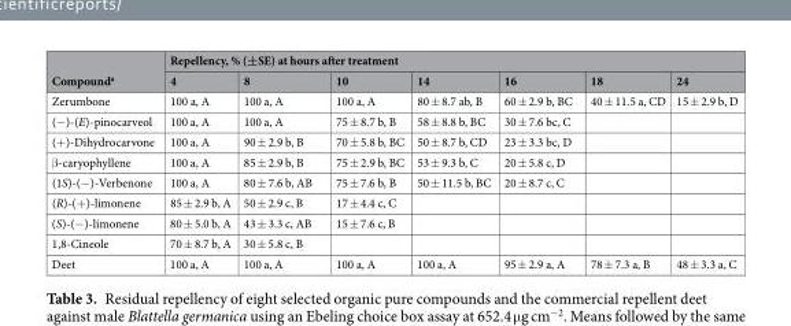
<table><thead><tr><td rowspan="2">Compound<sup>a</sup></td><td colspan="7">Repellency, % (±SE) at hours after treatment</td></tr><tr><td>4</td><td>8</td><td>10</td><td>14</td><td>16</td><td>18</td><td>24</td></tr></thead><tbody><tr><td>Zerumbone</td><td>100 a, A</td><td>100 a, A</td><td>100 a, A</td><td>80 ± 8.7 ab, B</td><td>60 ± 2.9 b, BC</td><td>40 ± 11.5 a, CD</td><td>15 ± 2.9 b, D</td></tr><tr><td>(−)-(E)-pinocarveol</td><td>100 a, A</td><td>100 a, A</td><td>75 ± 8.7 b, B</td><td>58 ± 8.8 b, BC</td><td>30 ± 7.6 bc, C</td><td></td><td></td></tr><tr><td>(+)-Dihydrocarvone</td><td>100 a, A</td><td>90 ± 2.9 b, B</td><td>70 ± 5.8 b, BC</td><td>50 ± 8.7 b, CD</td><td>23 ± 3.3 bc, D</td><td></td><td></td></tr><tr><td>β-caryophyllene</td><td>100 a, A</td><td>85 ± 2.9 b, B</td><td>75 ± 2.9 b, BC</td><td>53 ± 9.3 b, C</td><td>20 ± 5.8 c, D</td><td></td><td></td></tr><tr><td>(1S)-(−)-Verbenone</td><td>100 a, A</td><td>80 ± 7.6 b, AB</td><td>75 ± 7.6 b, B</td><td>50 ± 11.5 b, BC</td><td>20 ± 8.7 c, C</td><td></td><td></td></tr><tr><td>(R)-(+)-limonene</td><td>85 ± 2.9 b, A</td><td>50 ± 2.9 c, B</td><td>17 ± 4.4 c, C</td><td></td><td></td><td></td><td></td></tr><tr><td>(S)-(−)-limonene</td><td>80 ± 5.0 b, A</td><td>43 ± 3.3 c, AB</td><td>15 ± 7.6 c, B</td><td></td><td></td><td></td><td></td></tr><tr><td>1,8-Cineole</td><td>70 ± 8.7 b, A</td><td>30 ± 5.8 c, B</td><td></td><td></td><td></td><td></td><td></td></tr><tr><td>Deet</td><td>100 a, A</td><td>100 a, A</td><td>100 a, A</td><td>100 a, A</td><td>95 ± 2.9 a, A</td><td>78 ± 7.3 a, B</td><td>48 ± 3.3 a, C</td></tr></tbody></table>